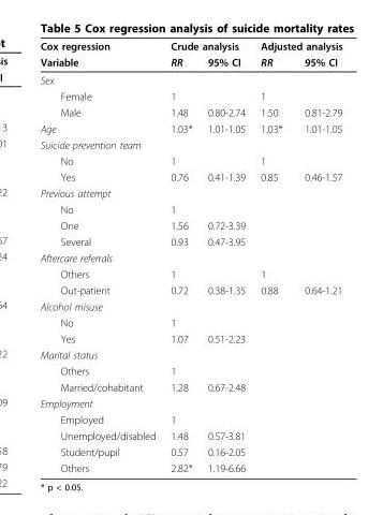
<table><thead><tr><td rowspan="2">Cox regression Variable</td><td colspan="2">Crude analysis</td><td colspan="2">Adjusted analysis</td></tr><tr><td>RR</td><td>95% CI</td><td>RR</td><td>95% CI</td></tr></thead><tbody><tr><td colspan="5">Sex</td></tr><tr><td>Female</td><td>1</td><td></td><td>1</td><td></td></tr><tr><td>Male</td><td>1.48</td><td>0.80-2.74</td><td>1.50</td><td>0.81-2.79</td></tr><tr><td>Age</td><td>1.03*</td><td>1.01-1.05</td><td>1.03*</td><td>1.01-1.05</td></tr><tr><td colspan="5">Suicide prevention team</td></tr><tr><td>No</td><td>1</td><td></td><td>1</td><td></td></tr><tr><td>Yes</td><td>0.76</td><td>0.41-1.39</td><td>0.85</td><td>0.46-1.57</td></tr><tr><td colspan="5">Previous attempt</td></tr><tr><td>No</td><td>1</td><td></td><td></td><td></td></tr><tr><td>One</td><td>1.56</td><td>0.72-3.39</td><td></td><td></td></tr><tr><td>Several</td><td>0.93</td><td>0.47-3.95</td><td></td><td></td></tr><tr><td colspan="5">Aftercare referrals</td></tr><tr><td>Others</td><td>1</td><td></td><td>1</td><td></td></tr><tr><td>Out-patient</td><td>0.72</td><td>0.38-1.35</td><td>0.88</td><td>0.64-1.21</td></tr><tr><td colspan="5">Alcohol misuse</td></tr><tr><td>No</td><td>1</td><td></td><td></td><td></td></tr><tr><td>Yes</td><td>1.07</td><td>0.51-2.23</td><td></td><td></td></tr><tr><td colspan="5">Marital status</td></tr><tr><td>Others</td><td>1</td><td></td><td></td><td></td></tr><tr><td>Married/cohabitant</td><td>1.28</td><td>0.67-2.48</td><td></td><td></td></tr><tr><td colspan="5">Employment</td></tr><tr><td>Employed</td><td>1</td><td></td><td></td><td></td></tr><tr><td>Unemployed/disabled</td><td>1.48</td><td>0.57-3.81</td><td></td><td></td></tr><tr><td>Student/pupil</td><td>0.57</td><td>0.16-2.05</td><td></td><td></td></tr><tr><td>Others</td><td>2.82*</td><td>1.19-6.66</td><td></td><td></td></tr></tbody></table>